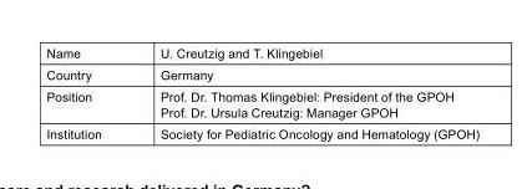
<table><tbody><tr><td>Name</td><td>U. Creutzig and T. Klingebiel</td></tr><tr><td>Country</td><td>Germany</td></tr><tr><td>Position</td><td>Prof. Dr. Thomas Klingebiel: President of the GPOH Prof. Dr. Ursula Creutzig: Manager GPOH</td></tr><tr><td>Institution</td><td>Society for Pediatric Oncology and Hematology (GPOH)</td></tr></tbody></table>